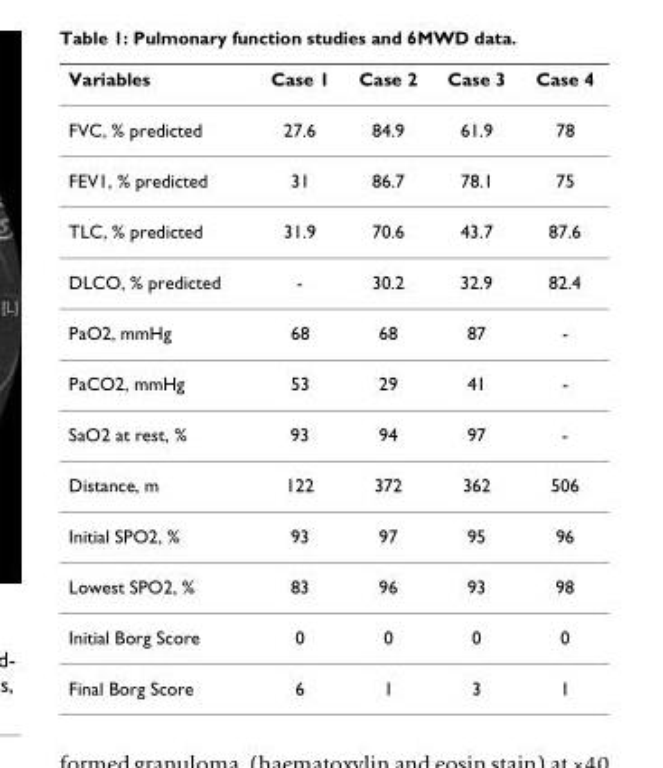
<table><thead><tr><td>Variables</td><td>Case 1</td><td>Case 2</td><td>Case 3</td><td>Case 4</td></tr></thead><tbody><tr><td>FVC, % predicted</td><td>27.6</td><td>84.9</td><td>61.9</td><td>78</td></tr><tr><td>FEV1, % predicted</td><td>31</td><td>86.7</td><td>78.1</td><td>75</td></tr><tr><td>TLC, % predicted</td><td>31.9</td><td>70.6</td><td>43.7</td><td>87.6</td></tr><tr><td>DLCO, % predicted</td><td>-</td><td>30.2</td><td>32.9</td><td>82.4</td></tr><tr><td>PaO2, mmHg</td><td>68</td><td>68</td><td>87</td><td>-</td></tr><tr><td>PaCO2, mmHg</td><td>53</td><td>29</td><td>41</td><td>-</td></tr><tr><td>SaO2 at rest, %</td><td>93</td><td>94</td><td>97</td><td>-</td></tr><tr><td>Distance, m</td><td>122</td><td>372</td><td>362</td><td>506</td></tr><tr><td>Initial SPO2, %</td><td>93</td><td>97</td><td>95</td><td>96</td></tr><tr><td>Lowest SPO2, %</td><td>83</td><td>96</td><td>93</td><td>98</td></tr><tr><td>Initial Borg Score</td><td>0</td><td>0</td><td>0</td><td>0</td></tr><tr><td>Final Borg Score</td><td>6</td><td>1</td><td>3</td><td>1</td></tr></tbody></table>